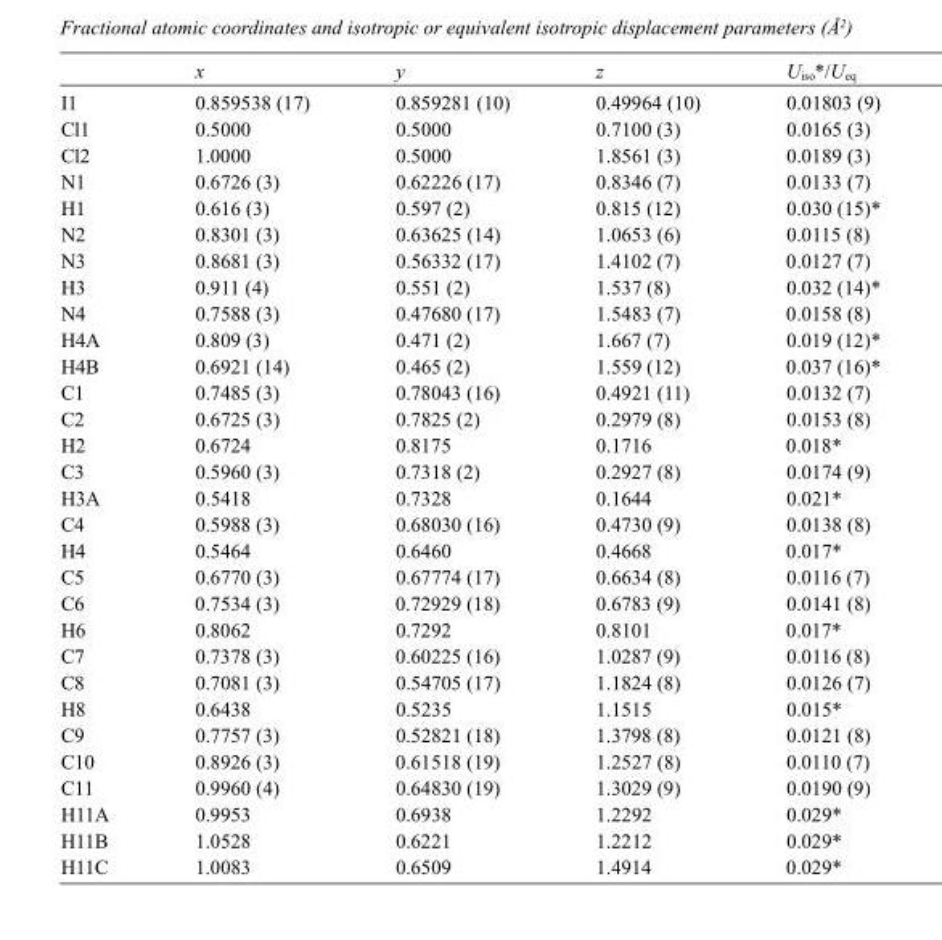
<table><thead><tr><td></td><td>x</td><td>y</td><td>z</td><td>U<sub>iso</sub>*/U<sub>eq</sub></td></tr></thead><tbody><tr><td>I1</td><td>0.859538 (17)</td><td>0.859281 (10)</td><td>0.49964 (10)</td><td>0.01803 (9)</td></tr><tr><td>Cl1</td><td>0.5000</td><td>0.5000</td><td>0.7100 (3)</td><td>0.0165 (3)</td></tr><tr><td>Cl2</td><td>1.0000</td><td>0.5000</td><td>1.8561 (3)</td><td>0.0189 (3)</td></tr><tr><td>N1</td><td>0.6726 (3)</td><td>0.62226 (17)</td><td>0.8346 (7)</td><td>0.0133 (7)</td></tr><tr><td>H1</td><td>0.616 (3)</td><td>0.597 (2)</td><td>0.815 (12)</td><td>0.030 (15)*</td></tr><tr><td>N2</td><td>0.8301 (3)</td><td>0.63625 (14)</td><td>1.0653 (6)</td><td>0.0115 (8)</td></tr><tr><td>N3</td><td>0.8681 (3)</td><td>0.56332 (17)</td><td>1.4102 (7)</td><td>0.0127 (7)</td></tr><tr><td>H3</td><td>0.911 (4)</td><td>0.551 (2)</td><td>1.537 (8)</td><td>0.032 (14)*</td></tr><tr><td>N4</td><td>0.7588 (3)</td><td>0.47680 (17)</td><td>1.5483 (7)</td><td>0.0158 (8)</td></tr><tr><td>H4A</td><td>0.809 (3)</td><td>0.471 (2)</td><td>1.667 (7)</td><td>0.019 (12)*</td></tr><tr><td>H4B</td><td>0.6921 (14)</td><td>0.465 (2)</td><td>1.559 (12)</td><td>0.037 (16)*</td></tr><tr><td>C1</td><td>0.7485 (3)</td><td>0.78043 (16)</td><td>0.4921 (11)</td><td>0.0132 (7)</td></tr><tr><td>C2</td><td>0.6725 (3)</td><td>0.7825 (2)</td><td>0.2979 (8)</td><td>0.0153 (8)</td></tr><tr><td>H2</td><td>0.6724</td><td>0.8175</td><td>0.1716</td><td>0.018*</td></tr><tr><td>C3</td><td>0.5960 (3)</td><td>0.7318 (2)</td><td>0.2927 (8)</td><td>0.0174 (9)</td></tr><tr><td>H3A</td><td>0.5418</td><td>0.7328</td><td>0.1644</td><td>0.021*</td></tr><tr><td>C4</td><td>0.5988 (3)</td><td>0.68030 (16)</td><td>0.4730 (9)</td><td>0.0138 (8)</td></tr><tr><td>H4</td><td>0.5464</td><td>0.6460</td><td>0.4668</td><td>0.017*</td></tr><tr><td>C5</td><td>0.6770 (3)</td><td>0.67774 (17)</td><td>0.6634 (8)</td><td>0.0116 (7)</td></tr><tr><td>C6</td><td>0.7534 (3)</td><td>0.72929 (18)</td><td>0.6783 (9)</td><td>0.0141 (8)</td></tr><tr><td>H6</td><td>0.8062</td><td>0.7292</td><td>0.8101</td><td>0.017*</td></tr><tr><td>C7</td><td>0.7378 (3)</td><td>0.60225 (16)</td><td>1.0287 (9)</td><td>0.0116 (8)</td></tr><tr><td>C8</td><td>0.7081 (3)</td><td>0.54705 (17)</td><td>1.1824 (8)</td><td>0.0126 (7)</td></tr><tr><td>H8</td><td>0.6438</td><td>0.5235</td><td>1.1515</td><td>0.015*</td></tr><tr><td>C9</td><td>0.7757 (3)</td><td>0.52821 (18)</td><td>1.3798 (8)</td><td>0.0121 (8)</td></tr><tr><td>C10</td><td>0.8926 (3)</td><td>0.61518 (19)</td><td>1.2527 (8)</td><td>0.0110 (7)</td></tr><tr><td>C11</td><td>0.9960 (4)</td><td>0.64830 (19)</td><td>1.3029 (9)</td><td>0.0190 (9)</td></tr><tr><td>H11A</td><td>0.9953</td><td>0.6938</td><td>1.2292</td><td>0.029*</td></tr><tr><td>H11B</td><td>1.0528</td><td>0.6221</td><td>1.2212</td><td>0.029*</td></tr><tr><td>H11C</td><td>1.0083</td><td>0.6509</td><td>1.4914</td><td>0.029*</td></tr></tbody></table>